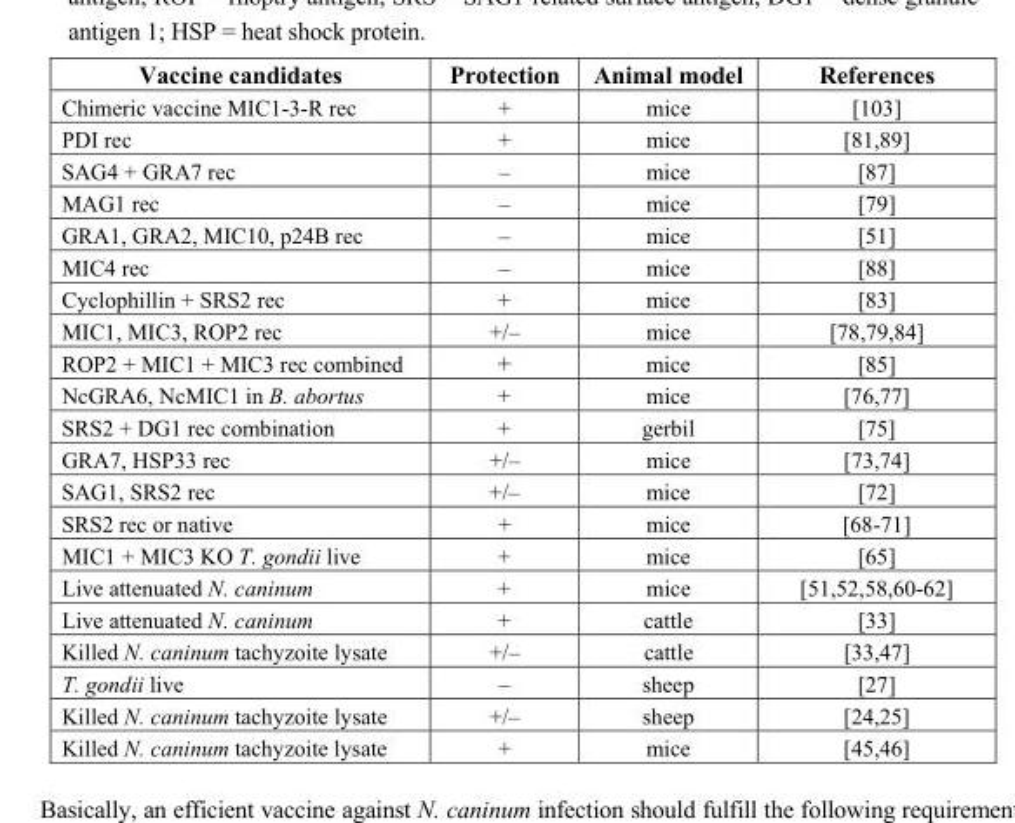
<table><thead><tr><td>Vaccine candidates</td><td>Protection</td><td>Animal model</td><td>References</td></tr></thead><tbody><tr><td>Chimeric vaccine MIC1-3-R rec</td><td>+</td><td>mice</td><td>[103]</td></tr><tr><td>PDI rec</td><td>+</td><td>mice</td><td>[81,89]</td></tr><tr><td>SAG4 + GRA7 rec</td><td>–</td><td>mice</td><td>[87]</td></tr><tr><td>MAG1 rec</td><td>–</td><td>mice</td><td>[79]</td></tr><tr><td>GRA1, GRA2, MIC10, p24B rec</td><td>–</td><td>mice</td><td>[51]</td></tr><tr><td>MIC4 rec</td><td>–</td><td>mice</td><td>[88]</td></tr><tr><td>Cyclophillin + SRS2 rec</td><td>+</td><td>mice</td><td>[83]</td></tr><tr><td>MIC1, MIC3, ROP2 rec</td><td>+/–</td><td>mice</td><td>[78,79,84]</td></tr><tr><td>ROP2 + MIC1 + MIC3 rec combined</td><td>+</td><td>mice</td><td>[85]</td></tr><tr><td>NcGRA6, NcMIC1 in B. abortus</td><td>+</td><td>mice</td><td>[76,77]</td></tr><tr><td>SRS2 + DG1 rec combination</td><td>+</td><td>gerbil</td><td>[75]</td></tr><tr><td>GRA7, HSP33 rec</td><td>+/–</td><td>mice</td><td>[73,74]</td></tr><tr><td>SAG1, SRS2 rec</td><td>+/–</td><td>mice</td><td>[72]</td></tr><tr><td>SRS2 rec or native</td><td>+</td><td>mice</td><td>[68-71]</td></tr><tr><td>MIC1 + MIC3 KO T. gondii live</td><td>+</td><td>mice</td><td>[65]</td></tr><tr><td>Live attenuated N. caninum</td><td>+</td><td>mice</td><td>[51,52,58,60-62]</td></tr><tr><td>Live attenuated N. caninum</td><td>+</td><td>cattle</td><td>[33]</td></tr><tr><td>Killed N. caninum tachyzoite lysate</td><td>+/–</td><td>cattle</td><td>[33,47]</td></tr><tr><td>T. gondii live</td><td>–</td><td>sheep</td><td>[27]</td></tr><tr><td>Killed N. caninum tachyzoite lysate</td><td>+/–</td><td>sheep</td><td>[24,25]</td></tr><tr><td>Killed N. caninum tachyzoite lysate</td><td>+</td><td>mice</td><td>[45,46]</td></tr></tbody></table>